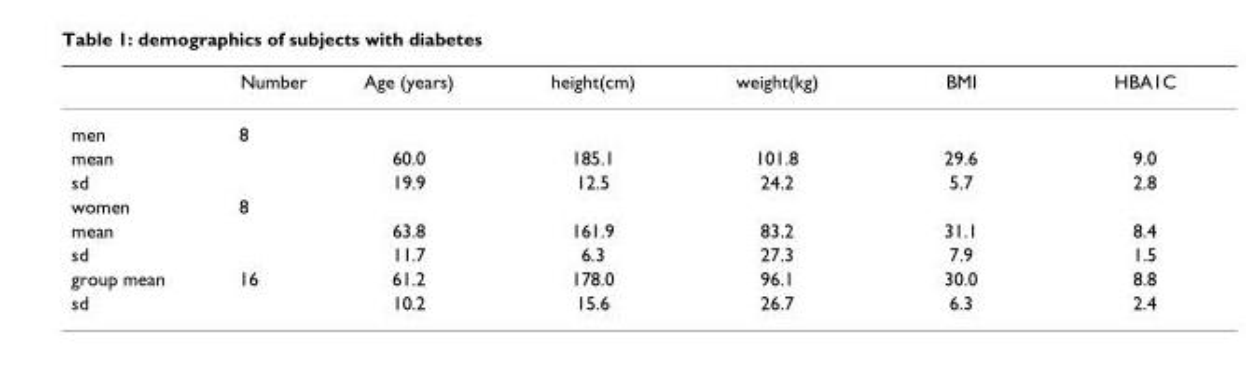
<table><thead><tr><td></td><td>Number</td><td>Age (years)</td><td>height(cm)</td><td>weight(kg)</td><td>BMI</td><td>HBA1C</td></tr></thead><tbody><tr><td>men</td><td>8</td><td></td><td></td><td></td><td></td><td></td></tr><tr><td>mean</td><td></td><td>60.0</td><td>185.1</td><td>101.8</td><td>29.6</td><td>9.0</td></tr><tr><td>sd</td><td></td><td>19.9</td><td>12.5</td><td>24.2</td><td>5.7</td><td>2.8</td></tr><tr><td>women</td><td>8</td><td></td><td></td><td></td><td></td><td></td></tr><tr><td>mean</td><td></td><td>63.8</td><td>161.9</td><td>83.2</td><td>31.1</td><td>8.4</td></tr><tr><td>sd</td><td></td><td>11.7</td><td>6.3</td><td>27.3</td><td>7.9</td><td>1.5</td></tr><tr><td>group mean</td><td>16</td><td>61.2</td><td>178.0</td><td>96.1</td><td>30.0</td><td>8.8</td></tr><tr><td>sd</td><td></td><td>10.2</td><td>15.6</td><td>26.7</td><td>6.3</td><td>2.4</td></tr></tbody></table>